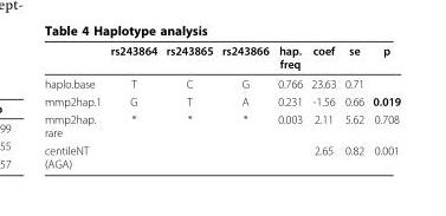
<table><thead><tr><td></td><td>rs243864</td><td>rs243865</td><td>rs243866</td><td>hap. freq</td><td>coef</td><td>se</td><td>p</td></tr></thead><tbody><tr><td>haplo.base</td><td>T</td><td>C</td><td>G</td><td>0.766</td><td>23.63</td><td>0.71</td><td></td></tr><tr><td>mmp2hap.1</td><td>G</td><td>T</td><td>A</td><td>0.231</td><td>-1.56</td><td>0.66</td><td>0.019</td></tr><tr><td>mmp2hap. rare</td><td>*</td><td>*</td><td>*</td><td>0.003</td><td>2.11</td><td>5.62</td><td>0.708</td></tr><tr><td>centileNT (AGA)</td><td></td><td></td><td></td><td></td><td>2.65</td><td>0.82</td><td>0.001</td></tr></tbody></table>